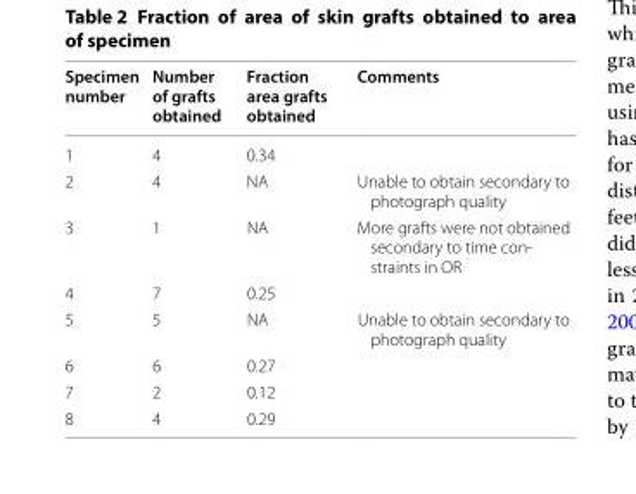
<table><thead><tr><td>Specimen number</td><td>Number of grafts obtained</td><td>Fraction area grafts obtained</td><td>Comments</td></tr></thead><tbody><tr><td>1</td><td>4</td><td>0.34</td><td></td></tr><tr><td>2</td><td>4</td><td>NA</td><td>Unable to obtain secondary to photograph quality</td></tr><tr><td>3</td><td>1</td><td>NA</td><td>More grafts were not obtained secondary to time con- straints in OR</td></tr><tr><td>4</td><td>7</td><td>0.25</td><td></td></tr><tr><td>5</td><td>5</td><td>NA</td><td>Unable to obtain secondary to photograph quality</td></tr><tr><td>6</td><td>6</td><td>0.27</td><td></td></tr><tr><td>7</td><td>2</td><td>0.12</td><td></td></tr><tr><td>8</td><td>4</td><td>0.29</td><td></td></tr></tbody></table>